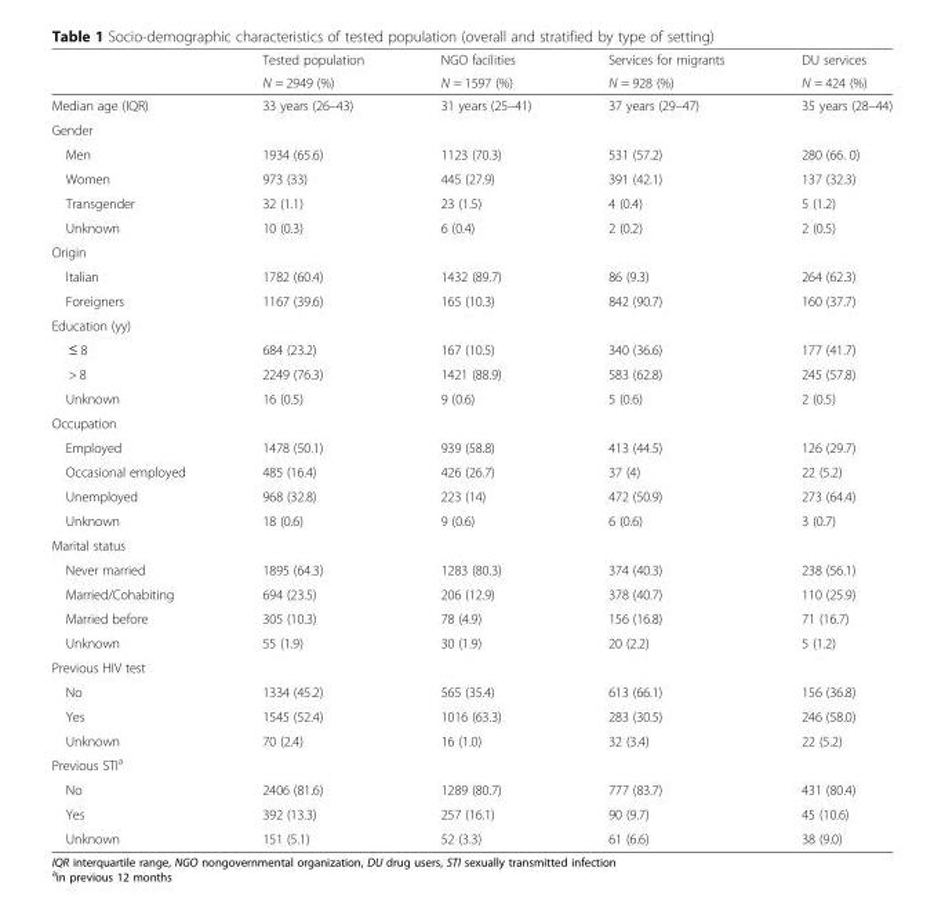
<table><thead><tr><td rowspan="2"></td><td rowspan="2">Tested population N = 2949 (%)</td><td rowspan="2">NGO facilities N = 1597 (%)</td><td rowspan="2">Services for migrants N = 928 (%)</td><td rowspan="2">DU services N = 424 (%)</td></tr><tr></tr></thead><tbody><tr><td>Median age (IQR)</td><td>33 years (26–43)</td><td>31 years (25–41)</td><td>37 years (29–47)</td><td>35 years (28–44)</td></tr><tr><td colspan="5">Gender</td></tr><tr><td>Men</td><td>1934 (65.6)</td><td>1123 (70.3)</td><td>531 (57.2)</td><td>280 (66. 0)</td></tr><tr><td>Women</td><td>973 (33)</td><td>445 (27.9)</td><td>391 (42.1)</td><td>137 (32.3)</td></tr><tr><td>Transgender</td><td>32 (1.1)</td><td>23 (1.5)</td><td>4 (0.4)</td><td>5 (1.2)</td></tr><tr><td>Unknown</td><td>10 (0.3)</td><td>6 (0.4)</td><td>2 (0.2)</td><td>2 (0.5)</td></tr><tr><td colspan="5">Origin</td></tr><tr><td>Italian</td><td>1782 (60.4)</td><td>1432 (89.7)</td><td>86 (9.3)</td><td>264 (62.3)</td></tr><tr><td>Foreigners</td><td>1167 (39.6)</td><td>165 (10.3)</td><td>842 (90.7)</td><td>160 (37.7)</td></tr><tr><td colspan="5">Education (yy)</td></tr><tr><td>≤ 8</td><td>684 (23.2)</td><td>167 (10.5)</td><td>340 (36.6)</td><td>177 (41.7)</td></tr><tr><td>&gt; 8</td><td>2249 (76.3)</td><td>1421 (88.9)</td><td>583 (62.8)</td><td>245 (57.8)</td></tr><tr><td>Unknown</td><td>16 (0.5)</td><td>9 (0.6)</td><td>5 (0.6)</td><td>2 (0.5)</td></tr><tr><td colspan="5">Occupation</td></tr><tr><td>Employed</td><td>1478 (50.1)</td><td>939 (58.8)</td><td>413 (44.5)</td><td>126 (29.7)</td></tr><tr><td>Occasional employed</td><td>485 (16.4)</td><td>426 (26.7)</td><td>37 (4)</td><td>22 (5.2)</td></tr><tr><td>Unemployed</td><td>968 (32.8)</td><td>223 (14)</td><td>472 (50.9)</td><td>273 (64.4)</td></tr><tr><td>Unknown</td><td>18 (0.6)</td><td>9 (0.6)</td><td>6 (0.6)</td><td>3 (0.7)</td></tr><tr><td colspan="5">Marital status</td></tr><tr><td>Never married</td><td>1895 (64.3)</td><td>1283 (80.3)</td><td>374 (40.3)</td><td>238 (56.1)</td></tr><tr><td>Married/Cohabiting</td><td>694 (23.5)</td><td>206 (12.9)</td><td>378 (40.7)</td><td>110 (25.9)</td></tr><tr><td>Married before</td><td>305 (10.3)</td><td>78 (4.9)</td><td>156 (16.8)</td><td>71 (16.7)</td></tr><tr><td>Unknown</td><td>55 (1.9)</td><td>30 (1.9)</td><td>20 (2.2)</td><td>5 (1.2)</td></tr><tr><td colspan="5">Previous HIV test</td></tr><tr><td>No</td><td>1334 (45.2)</td><td>565 (35.4)</td><td>613 (66.1)</td><td>156 (36.8)</td></tr><tr><td>Yes</td><td>1545 (52.4)</td><td>1016 (63.3)</td><td>283 (30.5)</td><td>246 (58.0)</td></tr><tr><td>Unknown</td><td>70 (2.4)</td><td>16 (1.0)</td><td>32 (3.4)</td><td>22 (5.2)</td></tr><tr><td colspan="5">Previous STI<sup>a</sup></td></tr><tr><td>No</td><td>2406 (81.6)</td><td>1289 (80.7)</td><td>777 (83.7)</td><td>431 (80.4)</td></tr><tr><td>Yes</td><td>392 (13.3)</td><td>257 (16.1)</td><td>90 (9.7)</td><td>45 (10.6)</td></tr><tr><td>Unknown</td><td>151 (5.1)</td><td>52 (3.3)</td><td>61 (6.6)</td><td>38 (9.0)</td></tr></tbody></table>